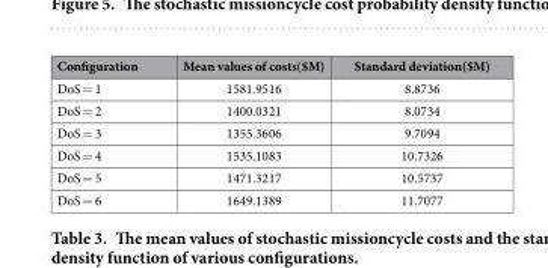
<table><thead><tr><td>Configuration</td><td>Mean values of costs($M)</td><td>Standard deviation($M)</td></tr></thead><tbody><tr><td>DoS = 1</td><td>1581.9516</td><td>8.8736</td></tr><tr><td>DoS = 2</td><td>1400.0321</td><td>8.0734</td></tr><tr><td>DoS = 3</td><td>1355.3606</td><td>9.7094</td></tr><tr><td>DoS = 4</td><td>1535.1083</td><td>10.7326</td></tr><tr><td>DoS = 5</td><td>1471.3217</td><td>10.5737</td></tr><tr><td>DoS = 6</td><td>1649.1389</td><td>11.7077</td></tr></tbody></table>